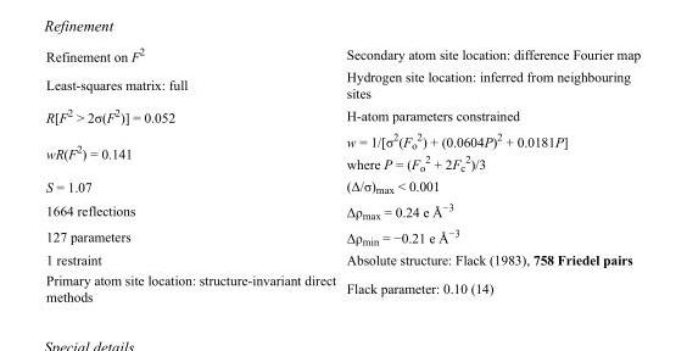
<table><tbody><tr><td>Refinement on F<sup>2</sup></td><td>Secondary atom site location: difference Fourier map</td></tr><tr><td>Least-squares matrix: full</td><td>Hydrogen site location: inferred from neighbouring sites</td></tr><tr><td>R[F<sup>2</sup> &gt; 2σ(F<sup>2</sup>)] = 0.052</td><td>H-atom parameters constrained</td></tr><tr><td>wR(F<sup>2</sup>) = 0.141</td><td>w = 1/[σ<sup>2</sup>(F<sub>o</sub> <sup>2</sup>) + (0.0604P)<sup>2</sup> + 0.0181P] where P = (F<sub>o</sub> <sup>2</sup> + 2F<sub>c</sub> <sup>2</sup>)/3</td></tr><tr><td>S = 1.07</td><td>(Δ/σ)<sub>max</sub> &lt; 0.001</td></tr><tr><td>1664 reflections</td><td>Δρ<sub>max</sub> = 0.24 e Å<sup>−3</sup></td></tr><tr><td>127 parameters</td><td>Δρ<sub>min</sub> = −0.21 e Å<sup>−3</sup></td></tr><tr><td>1 restraint</td><td>Absolute structure: Flack (1983), 758 Friedel pairs</td></tr><tr><td>Primary atom site location: structure-invariant direct methods</td><td>Flack parameter: 0.10 (14)</td></tr></tbody></table>